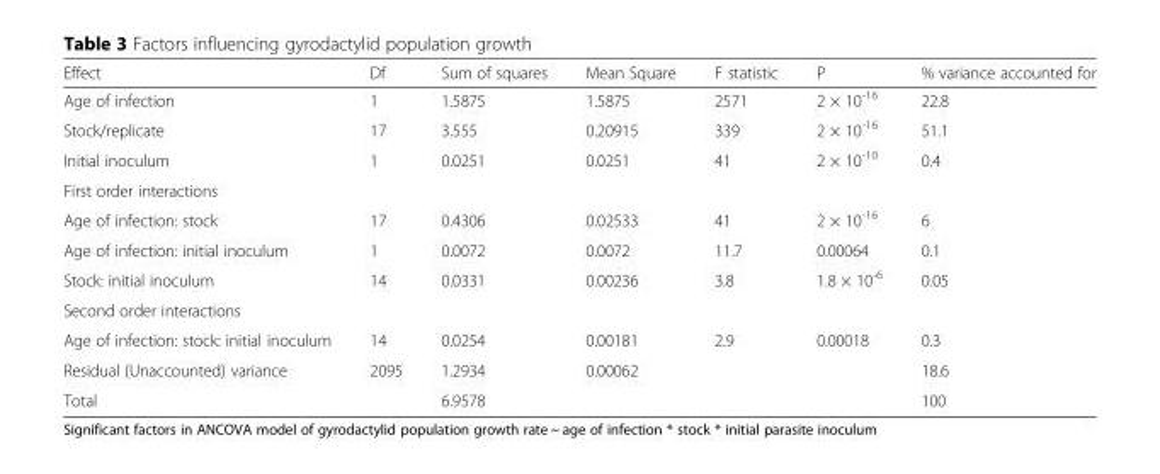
<table><thead><tr><td>Effect</td><td>Df</td><td>Sum of squares</td><td>Mean Square</td><td>F statistic</td><td>P</td><td>% variance accounted for</td></tr></thead><tbody><tr><td>Age of infection</td><td>1</td><td>1.5875</td><td>1.5875</td><td>2571</td><td>2 × 10<sup>-16</sup></td><td>22.8</td></tr><tr><td>Stock/replicate</td><td>17</td><td>3.555</td><td>0.20915</td><td>339</td><td>2 × 10<sup>-16</sup></td><td>51.1</td></tr><tr><td>Initial inoculum</td><td>1</td><td>0.0251</td><td>0.0251</td><td>41</td><td>2 × 10<sup>-10</sup></td><td>0.4</td></tr><tr><td colspan="7">First order interactions</td></tr><tr><td>Age of infection: stock</td><td>17</td><td>0.4306</td><td>0.02533</td><td>41</td><td>2 × 10<sup>-16</sup></td><td>6</td></tr><tr><td>Age of infection: initial inoculum</td><td>1</td><td>0.0072</td><td>0.0072</td><td>11.7</td><td>0.00064</td><td>0.1</td></tr><tr><td>Stock: initial inoculum</td><td>14</td><td>0.0331</td><td>0.00236</td><td>3.8</td><td>1.8 × 10<sup>-6</sup></td><td>0.05</td></tr><tr><td colspan="7">Second order interactions</td></tr><tr><td>Age of infection: stock: initial inoculum</td><td>14</td><td>0.0254</td><td>0.00181</td><td>2.9</td><td>0.00018</td><td>0.3</td></tr><tr><td>Residual (Unaccounted) variance</td><td>2095</td><td>1.2934</td><td>0.00062</td><td></td><td></td><td>18.6</td></tr><tr><td>Total</td><td></td><td>6.9578</td><td></td><td></td><td></td><td>100</td></tr></tbody></table>